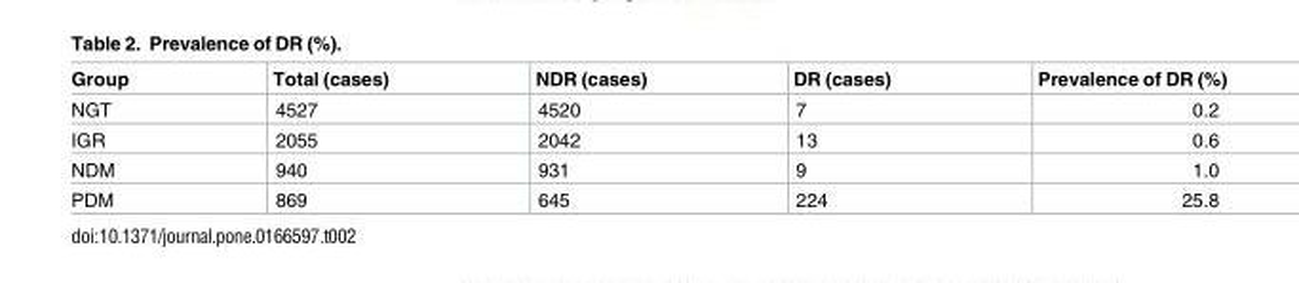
<table><thead><tr><td>Group</td><td>Total (cases)</td><td>NDR (cases)</td><td>DR (cases)</td><td>Prevalence of DR (%)</td></tr></thead><tbody><tr><td>NGT</td><td>4527</td><td>4520</td><td>7</td><td>0.2</td></tr><tr><td>IGR</td><td>2055</td><td>2042</td><td>13</td><td>0.6</td></tr><tr><td>NDM</td><td>940</td><td>931</td><td>9</td><td>1.0</td></tr><tr><td>PDM</td><td>869</td><td>645</td><td>224</td><td>25.8</td></tr></tbody></table>